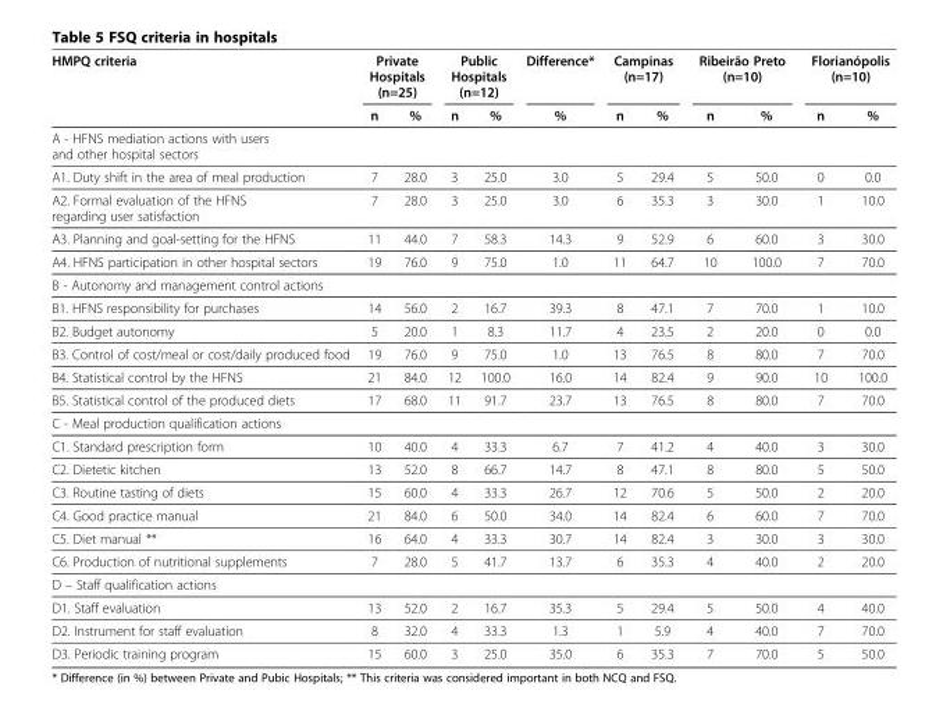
<table><thead><tr><td rowspan="2">HMPQ criteria</td><td colspan="2">Private Hospitals (n=25)</td><td colspan="2">Public Hospitals (n=12)</td><td rowspan="2">Difference* %</td><td colspan="2">Campinas (n=17)</td><td colspan="2">Ribeirão Preto (n=10)</td><td colspan="2">Florianópolis (n=10)</td></tr><tr><td>n</td><td>%</td><td>n</td><td>%</td><td>n</td><td>%</td><td>n</td><td>%</td><td>n</td><td>%</td></tr></thead><tbody><tr><td colspan="12">A - HFNS mediation actions with users and other hospital sectors</td></tr><tr><td>A1. Duty shift in the area of meal production</td><td>7</td><td>28.0</td><td>3</td><td>25.0</td><td>3.0</td><td>5</td><td>29.4</td><td>5</td><td>50.0</td><td>0</td><td>0.0</td></tr><tr><td>A2. Formal evaluation of the HFNS regarding user satisfaction</td><td>7</td><td>28.0</td><td>3</td><td>25.0</td><td>3.0</td><td>6</td><td>35.3</td><td>3</td><td>30.0</td><td>1</td><td>10.0</td></tr><tr><td>A3. Planning and goal-setting for the HFNS</td><td>11</td><td>44.0</td><td>7</td><td>58.3</td><td>14.3</td><td>9</td><td>52.9</td><td>6</td><td>60.0</td><td>3</td><td>30.0</td></tr><tr><td>A4. HFNS participation in other hospital sectors</td><td>19</td><td>76.0</td><td>9</td><td>75.0</td><td>1.0</td><td>11</td><td>64.7</td><td>10</td><td>100.0</td><td>7</td><td>70.0</td></tr><tr><td colspan="12">B - Autonomy and management control actions</td></tr><tr><td>B1. HFNS responsibility for purchases</td><td>14</td><td>56.0</td><td>2</td><td>16.7</td><td>39.3</td><td>8</td><td>47.1</td><td>7</td><td>70.0</td><td>1</td><td>10.0</td></tr><tr><td>B2. Budget autonomy</td><td>5</td><td>20.0</td><td>1</td><td>8.3</td><td>11.7</td><td>4</td><td>23.5</td><td>2</td><td>20.0</td><td>0</td><td>0.0</td></tr><tr><td>B3. Control of cost/meal or cost/daily produced food</td><td>19</td><td>76.0</td><td>9</td><td>75.0</td><td>1.0</td><td>13</td><td>76.5</td><td>8</td><td>80.0</td><td>7</td><td>70.0</td></tr><tr><td>B4. Statistical control by the HFNS</td><td>21</td><td>84.0</td><td>12</td><td>100.0</td><td>16.0</td><td>14</td><td>82.4</td><td>9</td><td>90.0</td><td>10</td><td>100.0</td></tr><tr><td>B5. Statistical control of the produced diets</td><td>17</td><td>68.0</td><td>11</td><td>91.7</td><td>23.7</td><td>13</td><td>76.5</td><td>8</td><td>80.0</td><td>7</td><td>70.0</td></tr><tr><td colspan="12">C - Meal production qualification actions</td></tr><tr><td>C1. Standard prescription form</td><td>10</td><td>40.0</td><td>4</td><td>33.3</td><td>6.7</td><td>7</td><td>41.2</td><td>4</td><td>40.0</td><td>3</td><td>30.0</td></tr><tr><td>C2. Dietetic kitchen</td><td>13</td><td>52.0</td><td>8</td><td>66.7</td><td>14.7</td><td>8</td><td>47.1</td><td>8</td><td>80.0</td><td>5</td><td>50.0</td></tr><tr><td>C3. Routine tasting of diets</td><td>15</td><td>60.0</td><td>4</td><td>33.3</td><td>26.7</td><td>12</td><td>70.6</td><td>5</td><td>50.0</td><td>2</td><td>20.0</td></tr><tr><td>C4. Good practice manual</td><td>21</td><td>84.0</td><td>6</td><td>50.0</td><td>34.0</td><td>14</td><td>82.4</td><td>6</td><td>60.0</td><td>7</td><td>70.0</td></tr><tr><td>C5. Diet manual **</td><td>16</td><td>64.0</td><td>4</td><td>33.3</td><td>30.7</td><td>14</td><td>82.4</td><td>3</td><td>30.0</td><td>3</td><td>30.0</td></tr><tr><td>C6. Production of nutritional supplements</td><td>7</td><td>28.0</td><td>5</td><td>41.7</td><td>13.7</td><td>6</td><td>35.3</td><td>4</td><td>40.0</td><td>2</td><td>20.0</td></tr><tr><td colspan="12">D – Staff qualification actions</td></tr><tr><td>D1. Staff evaluation</td><td>13</td><td>52.0</td><td>2</td><td>16.7</td><td>35.3</td><td>5</td><td>29.4</td><td>5</td><td>50.0</td><td>4</td><td>40.0</td></tr><tr><td>D2. Instrument for staff evaluation</td><td>8</td><td>32.0</td><td>4</td><td>33.3</td><td>1.3</td><td>1</td><td>5.9</td><td>4</td><td>40.0</td><td>7</td><td>70.0</td></tr><tr><td>D3. Periodic training program</td><td>15</td><td>60.0</td><td>3</td><td>25.0</td><td>35.0</td><td>6</td><td>35.3</td><td>7</td><td>70.0</td><td>5</td><td>50.0</td></tr></tbody></table>